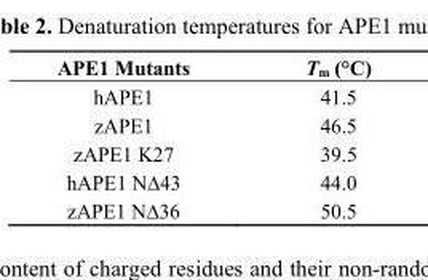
<table><thead><tr><td>APE1 Mutants</td><td>T<sub>m</sub> (°C)</td></tr></thead><tbody><tr><td>hAPE1</td><td>41.5</td></tr><tr><td>zAPE1</td><td>46.5</td></tr><tr><td>zAPE1 K27</td><td>39.5</td></tr><tr><td>hAPE1 N∆43</td><td>44.0</td></tr><tr><td>zAPE1 N∆36</td><td>50.5</td></tr></tbody></table>